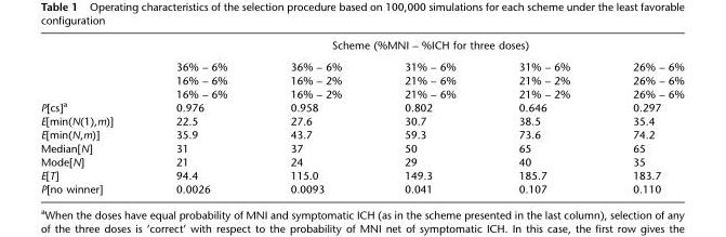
<table><thead><tr><td rowspan="2"></td><td colspan="5">Scheme (%MNI – %ICH for three doses)</td></tr><tr><td>36% – 6%</td><td>36% – 6%</td><td>31% – 6%</td><td>31% – 6%</td><td>26% – 6%</td></tr></thead><tbody><tr><td></td><td>16% – 6%</td><td>16% – 2%</td><td>21% – 6%</td><td>21% – 2%</td><td>26% – 6%</td></tr><tr><td></td><td>16% – 6%</td><td>16% – 2%</td><td>21% – 6%</td><td>21% – 2%</td><td>26% – 6%</td></tr><tr><td>P[cs]<sup>a</sup></td><td>0.976</td><td>0.958</td><td>0.802</td><td>0.646</td><td>0.297</td></tr><tr><td>E[min(N(1),m)]</td><td>22.5</td><td>27.6</td><td>30.7</td><td>38.5</td><td>35.4</td></tr><tr><td>E[min(N,m)]</td><td>35.9</td><td>43.7</td><td>59.3</td><td>73.6</td><td>74.2</td></tr><tr><td>Median[N]</td><td>31</td><td>37</td><td>50</td><td>65</td><td>65</td></tr><tr><td>Mode[N]</td><td>21</td><td>24</td><td>29</td><td>40</td><td>35</td></tr><tr><td>E[T]</td><td>94.4</td><td>115.0</td><td>149.3</td><td>185.7</td><td>183.7</td></tr><tr><td>P[no winner]</td><td>0.0026</td><td>0.0093</td><td>0.041</td><td>0.107</td><td>0.110</td></tr></tbody></table>